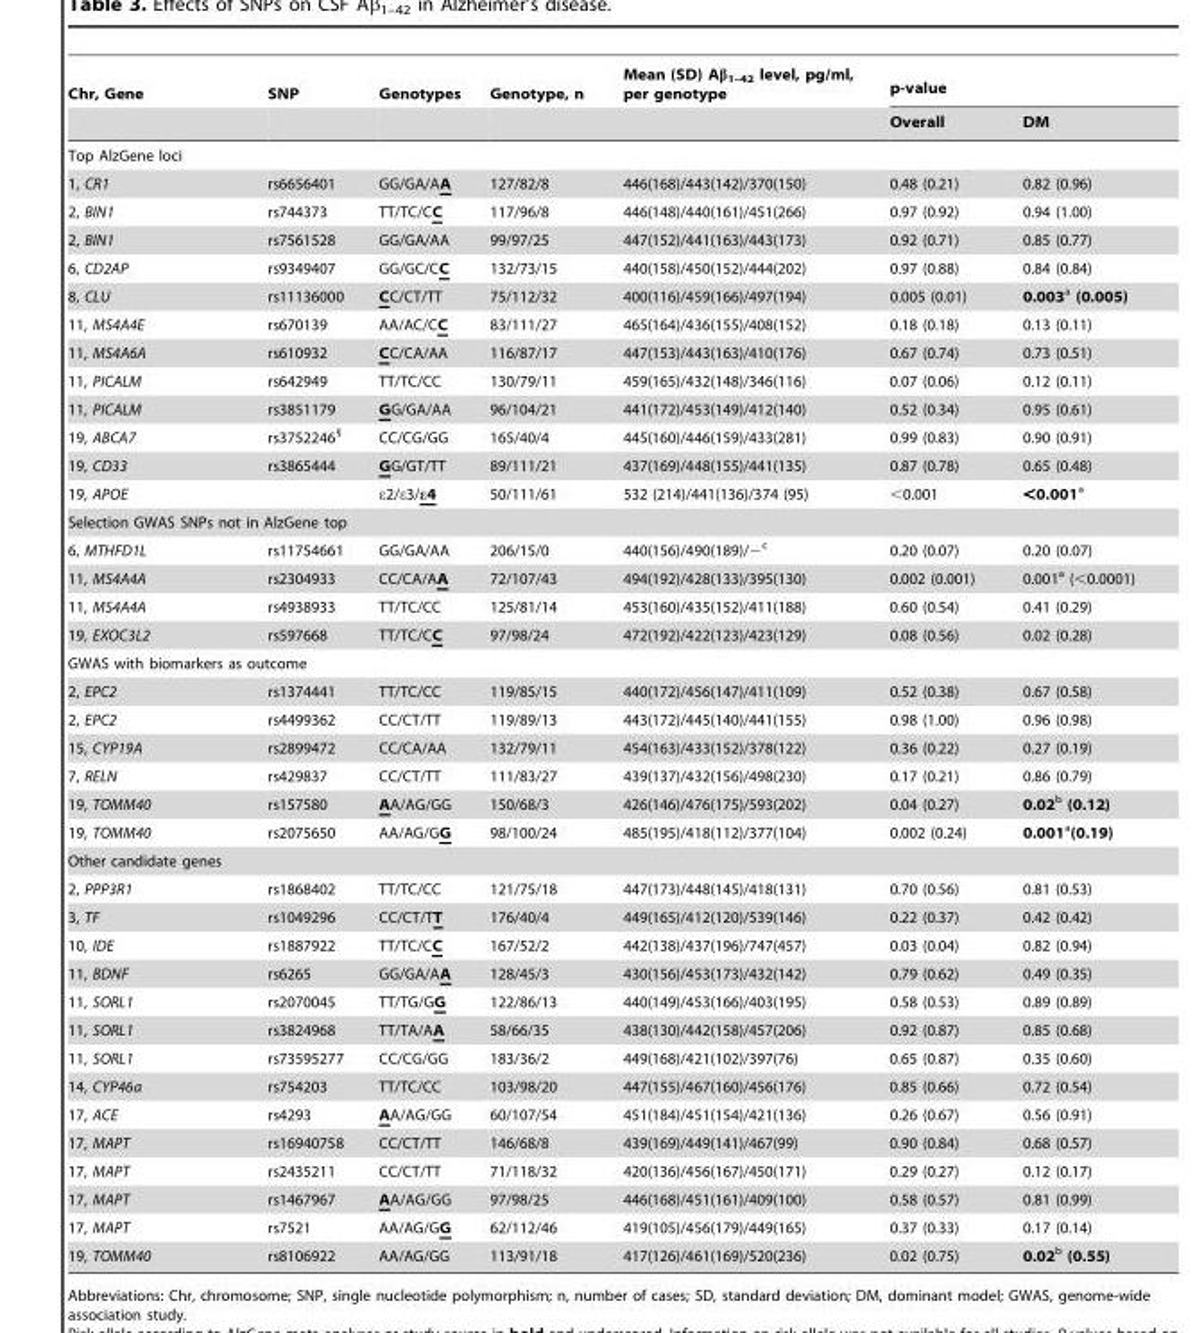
<table><thead><tr><td rowspan="2">Chr, Gene</td><td rowspan="2">SNP</td><td rowspan="2">Genotypes</td><td rowspan="2">Genotype, n</td><td rowspan="2">Mean (SD) Aβ<sub>1–42</sub> level, pg/ml, per genotype</td><td colspan="2">p-value</td></tr><tr><td>Overall</td><td>DM</td></tr></thead><tbody><tr><td colspan="7">Top AlzGene loci</td></tr><tr><td>1, CR1</td><td>rs6656401</td><td>GG/GA/AA</td><td>127/82/8</td><td>446(168)/443(142)/370(150)</td><td>0.48 (0.21)</td><td>0.82 (0.96)</td></tr><tr><td>2, BIN1</td><td>rs744373</td><td>TT/TC/CC</td><td>117/96/8</td><td>446(148)/440(161)/451(266)</td><td>0.97 (0.92)</td><td>0.94 (1.00)</td></tr><tr><td>2, BIN1</td><td>rs7561528</td><td>GG/GA/AA</td><td>99/97/25</td><td>447(152)/441(163)/443(173)</td><td>0.92 (0.71)</td><td>0.85 (0.77)</td></tr><tr><td>6, CD2AP</td><td>rs9349407</td><td>GG/GC/CC</td><td>132/73/15</td><td>440(158)/450(152)/444(202)</td><td>0.97 (0.88)</td><td>0.84 (0.84)</td></tr><tr><td>8, CLU</td><td>rs11136000</td><td>CC/CT/TT</td><td>75/112/32</td><td>400(116)/459(166)/497(194)</td><td>0.005 (0.01)</td><td>0.003a (0.005)</td></tr><tr><td>11, MS4A4E</td><td>rs670139</td><td>AA/AC/CC</td><td>83/111/27</td><td>465(164)/436(155)/408(152)</td><td>0.18 (0.18)</td><td>0.13 (0.11)</td></tr><tr><td>11, MS4A6A</td><td>rs610932</td><td>CC/CA/AA</td><td>116/87/17</td><td>447(153)/443(163)/410(176)</td><td>0.67 (0.74)</td><td>0.73 (0.51)</td></tr><tr><td>11, PICALM</td><td>rs642949</td><td>TT/TC/CC</td><td>130/79/11</td><td>459(165)/432(148)/346(116)</td><td>0.07 (0.06)</td><td>0.12 (0.11)</td></tr><tr><td>11, PICALM</td><td>rs3851179</td><td>GG/GA/AA</td><td>96/104/21</td><td>441(172)/453(149)/412(140)</td><td>0.52 (0.34)</td><td>0.95 (0.61)</td></tr><tr><td>19, ABCA7</td><td>rs3752246<sup>§</sup></td><td>CC/CG/GG</td><td>165/40/4</td><td>445(160)/446(159)/433(281)</td><td>0.99 (0.83)</td><td>0.90 (0.91)</td></tr><tr><td>19, CD33</td><td>rs3865444</td><td>GG/GT/TT</td><td>89/111/21</td><td>437(169)/448(155)/441(135)</td><td>0.87 (0.78)</td><td>0.65 (0.48)</td></tr><tr><td>19, APOE</td><td></td><td>ε2/ε3/ε4</td><td>50/111/61</td><td>532 (214)/441(136)/374 (95)</td><td>&lt;0.001</td><td>&lt;0.001a</td></tr><tr><td colspan="7">Selection GWAS SNPs not in AlzGene top</td></tr><tr><td>6, MTHFD1L</td><td>rs11754661</td><td>GG/GA/AA</td><td>206/15/0</td><td>440(156)/490(189)/−c</td><td>0.20 (0.07)</td><td>0.20 (0.07)</td></tr><tr><td>11, MS4A4A</td><td>rs2304933</td><td>CC/CA/AA</td><td>72/107/43</td><td>494(192)/428(133)/395(130)</td><td>0.002 (0.001)</td><td>0.001<sup>a</sup> (&lt;0.0001)</td></tr><tr><td>11, MS4A4A</td><td>rs4938933</td><td>TT/TC/CC</td><td>125/81/14</td><td>453(160)/435(152)/411(188)</td><td>0.60 (0.54)</td><td>0.41 (0.29)</td></tr><tr><td>19, EXOC3L2</td><td>rs597668</td><td>TT/TC/CC</td><td>97/98/24</td><td>472(192)/422(123)/423(129)</td><td>0.08 (0.56)</td><td>0.02 (0.28)</td></tr><tr><td colspan="7">GWAS with biomarkers as outcome</td></tr><tr><td>2, EPC2</td><td>rs1374441</td><td>TT/TC/CC</td><td>119/85/15</td><td>440(172)/456(147)/411(109)</td><td>0.52 (0.38)</td><td>0.67 (0.58)</td></tr><tr><td>2, EPC2</td><td>rs4499362</td><td>CC/CT/TT</td><td>119/89/13</td><td>443(172)/445(140)/441(155)</td><td>0.98 (1.00)</td><td>0.96 (0.98)</td></tr><tr><td>15, CYP19A</td><td>rs2899472</td><td>CC/CA/AA</td><td>132/79/11</td><td>454(163)/433(152)/378(122)</td><td>0.36 (0.22)</td><td>0.27 (0.19)</td></tr><tr><td>7, RELN</td><td>rs429837</td><td>CC/CT/TT</td><td>111/83/27</td><td>439(137)/432(156)/498(230)</td><td>0.17 (0.21)</td><td>0.86 (0.79)</td></tr><tr><td>19, TOMM40</td><td>rs157580</td><td>AA/AG/GG</td><td>150/68/3</td><td>426(146)/476(175)/593(202)</td><td>0.04 (0.27)</td><td>0.02b (0.12)</td></tr><tr><td>19, TOMM40</td><td>rs2075650</td><td>AA/AG/GG</td><td>98/100/24</td><td>485(195)/418(112)/377(104)</td><td>0.002 (0.24)</td><td>0.001a(0.19)</td></tr><tr><td colspan="7">Other candidate genes</td></tr><tr><td>2, PPP3R1</td><td>rs1868402</td><td>TT/TC/CC</td><td>121/75/18</td><td>447(173)/448(145)/418(131)</td><td>0.70 (0.56)</td><td>0.81 (0.53)</td></tr><tr><td>3, TF</td><td>rs1049296</td><td>CC/CT/TT</td><td>176/40/4</td><td>449(165)/412(120)/539(146)</td><td>0.22 (0.37)</td><td>0.42 (0.42)</td></tr><tr><td>10, IDE</td><td>rs1887922</td><td>TT/TC/CC</td><td>167/52/2</td><td>442(138)/437(196)/747(457)</td><td>0.03 (0.04)</td><td>0.82 (0.94)</td></tr><tr><td>11, BDNF</td><td>rs6265</td><td>GG/GA/AA</td><td>128/45/3</td><td>430(156)/453(173)/432(142)</td><td>0.79 (0.62)</td><td>0.49 (0.35)</td></tr><tr><td>11, SORL1</td><td>rs2070045</td><td>TT/TG/GG</td><td>122/86/13</td><td>440(149)/453(166)/403(195)</td><td>0.58 (0.53)</td><td>0.89 (0.89)</td></tr><tr><td>11, SORL1</td><td>rs3824968</td><td>TT/TA/AA</td><td>58/66/35</td><td>438(130)/442(158)/457(206)</td><td>0.92 (0.87)</td><td>0.85 (0.68)</td></tr><tr><td>11, SORL1</td><td>rs73595277</td><td>CC/CG/GG</td><td>183/36/2</td><td>449(168)/421(102)/397(76)</td><td>0.65 (0.87)</td><td>0.35 (0.60)</td></tr><tr><td>14, CYP46a</td><td>rs754203</td><td>TT/TC/CC</td><td>103/98/20</td><td>447(155)/467(160)/456(176)</td><td>0.85 (0.66)</td><td>0.72 (0.54)</td></tr><tr><td>17, ACE</td><td>rs4293</td><td>AA/AG/GG</td><td>60/107/54</td><td>451(184)/451(154)/421(136)</td><td>0.26 (0.67)</td><td>0.56 (0.91)</td></tr><tr><td>17, MAPT</td><td>rs16940758</td><td>CC/CT/TT</td><td>146/68/8</td><td>439(169)/449(141)/467(99)</td><td>0.90 (0.84)</td><td>0.68 (0.57)</td></tr><tr><td>17, MAPT</td><td>rs2435211</td><td>CC/CT/TT</td><td>71/118/32</td><td>420(136)/456(167)/450(171)</td><td>0.29 (0.27)</td><td>0.12 (0.17)</td></tr><tr><td>17, MAPT</td><td>rs1467967</td><td>AA/AG/GG</td><td>97/98/25</td><td>446(168)/451(161)/409(100)</td><td>0.58 (0.57)</td><td>0.81 (0.99)</td></tr><tr><td>17, MAPT</td><td>rs7521</td><td>AA/AG/GG</td><td>62/112/46</td><td>419(105)/456(179)/449(165)</td><td>0.37 (0.33)</td><td>0.17 (0.14)</td></tr><tr><td>19, TOMM40</td><td>rs8106922</td><td>AA/AG/GG</td><td>113/91/18</td><td>417(126)/461(169)/520(236)</td><td>0.02 (0.75)</td><td>0.02b (0.55)</td></tr></tbody></table>